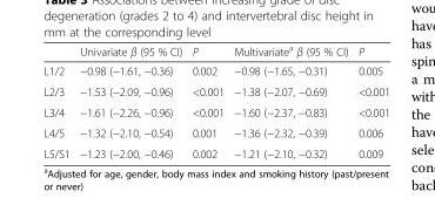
<table><thead><tr><td></td><td>Univariate β (95 % CI)</td><td>P</td><td>Multivariate<sup>a</sup> β (95 % CI)</td><td>P</td></tr></thead><tbody><tr><td>L1/2</td><td>−0.98 (−1.61, −0.36)</td><td>0.002</td><td>−0.98 (−1.65, −0.31)</td><td>0.005</td></tr><tr><td>L2/3</td><td>−1.53 (−2.09, −0.96)</td><td>&lt;0.001</td><td>−1.38 (−2.07, −0.69)</td><td>&lt;0.001</td></tr><tr><td>L3/4</td><td>−1.61 (−2.26, −0.96)</td><td>&lt;0.001</td><td>−1.60 (−2.37, −0.83)</td><td>&lt;0.001</td></tr><tr><td>L4/5</td><td>−1.32 (−2.10, −0.54)</td><td>0.001</td><td>−1.36 (−2.32, −0.39)</td><td>0.006</td></tr><tr><td>L5/S1</td><td>−1.23 (−2.00, −0.46)</td><td>0.002</td><td>−1.21 (−2.10, −0.32)</td><td>0.009</td></tr></tbody></table>